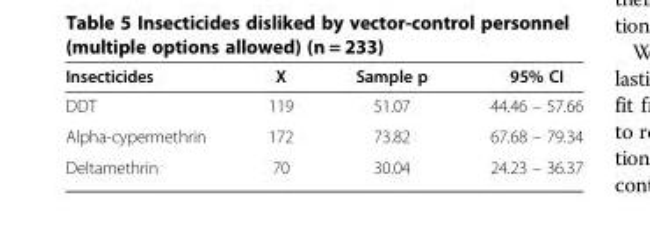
<table><thead><tr><td>Insecticides</td><td>X</td><td>Sample p</td><td>95% CI</td></tr></thead><tbody><tr><td>DDT</td><td>119</td><td>51.07</td><td>44.46 – 57.66</td></tr><tr><td>Alpha-cypermethrin</td><td>172</td><td>73.82</td><td>67.68 – 79.34</td></tr><tr><td>Deltamethrin</td><td>70</td><td>30.04</td><td>24.23 – 36.37</td></tr></tbody></table>